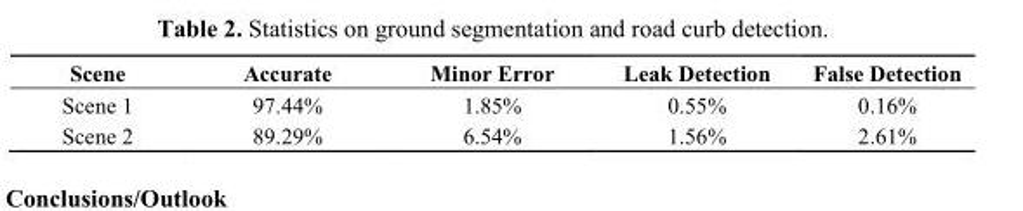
<table><thead><tr><td>Scene</td><td>Accurate</td><td>Minor Error</td><td>Leak Detection</td><td>False Detection</td></tr></thead><tbody><tr><td>Scene 1</td><td>97.44%</td><td>1.85%</td><td>0.55%</td><td>0.16%</td></tr><tr><td>Scene 2</td><td>89.29%</td><td>6.54%</td><td>1.56%</td><td>2.61%</td></tr></tbody></table>